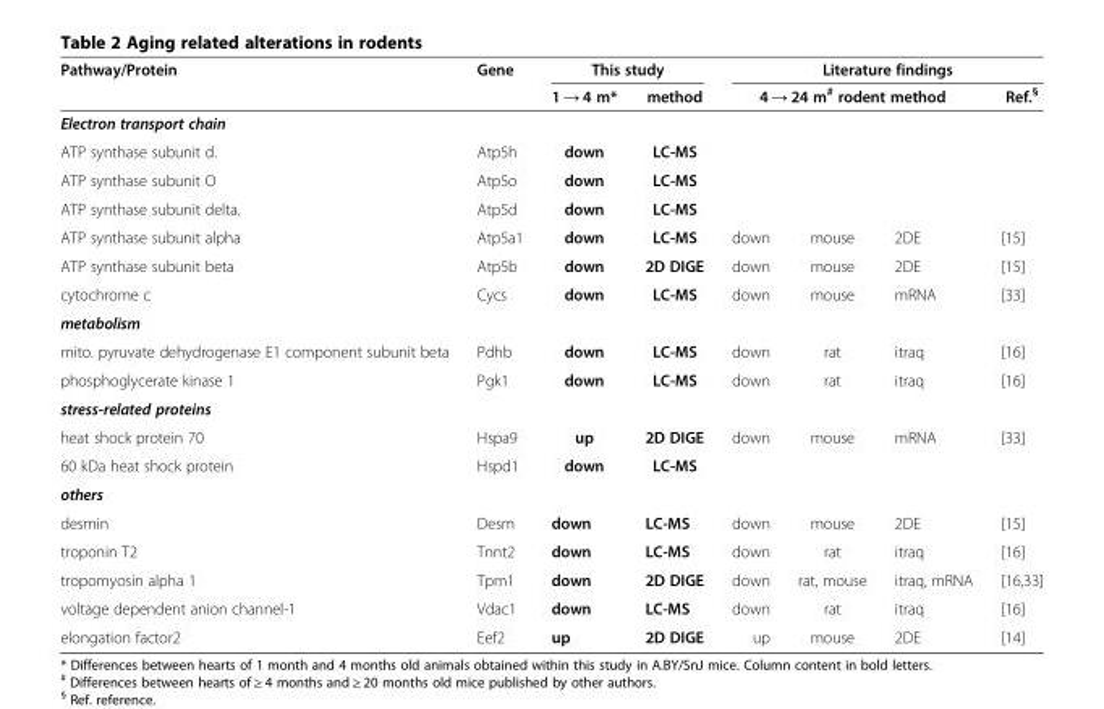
<table><thead><tr><td rowspan="2">Pathway/Protein</td><td rowspan="2">Gene</td><td colspan="2">This study</td><td colspan="4">Literature findings</td></tr><tr><td>1 → 4 m*</td><td>method</td><td colspan="3">4 → 24 m<sup>#</sup> rodent method</td><td>Ref.<sup>§</sup></td></tr><tr><td colspan="8">Electron transport chain</td></tr><tr><td>ATP synthase subunit d.</td><td>Atp5h</td><td>down</td><td>LC-MS</td><td></td><td></td><td></td><td></td></tr></thead><tbody><tr><td>ATP synthase subunit O</td><td>Atp5o</td><td>down</td><td>LC-MS</td><td></td><td></td><td></td><td></td></tr><tr><td>ATP synthase subunit delta.</td><td>Atp5d</td><td>down</td><td>LC-MS</td><td></td><td></td><td></td><td></td></tr><tr><td>ATP synthase subunit alpha</td><td>Atp5a1</td><td>down</td><td>LC-MS</td><td>down</td><td>mouse</td><td>2DE</td><td>[15]</td></tr><tr><td>ATP synthase subunit beta</td><td>Atp5b</td><td>down</td><td>2D DIGE</td><td>down</td><td>mouse</td><td>2DE</td><td>[15]</td></tr><tr><td>cytochrome c</td><td>Cycs</td><td>down</td><td>LC-MS</td><td>down</td><td>mouse</td><td>mRNA</td><td>[33]</td></tr><tr><td colspan="8">metabolism</td></tr><tr><td>mito. pyruvate dehydrogenase E1 component subunit beta</td><td>Pdhb</td><td>down</td><td>LC-MS</td><td>down</td><td>rat</td><td>itraq</td><td>[16]</td></tr><tr><td>phosphoglycerate kinase 1</td><td>Pgk1</td><td>down</td><td>LC-MS</td><td>down</td><td>rat</td><td>itraq</td><td>[16]</td></tr><tr><td colspan="8">stress-related proteins</td></tr><tr><td>heat shock protein 70</td><td>Hspa9</td><td>up</td><td>2D DIGE</td><td>down</td><td>mouse</td><td>mRNA</td><td>[33]</td></tr><tr><td>60 kDa heat shock protein</td><td>Hspd1</td><td>down</td><td>LC-MS</td><td></td><td></td><td></td><td></td></tr><tr><td colspan="8">others</td></tr><tr><td>desmin</td><td>Desm</td><td>down</td><td>LC-MS</td><td>down</td><td>mouse</td><td>2DE</td><td>[15]</td></tr><tr><td>troponin T2</td><td>Tnnt2</td><td>down</td><td>LC-MS</td><td>down</td><td>rat</td><td>itraq</td><td>[16]</td></tr><tr><td>tropomyosin alpha 1</td><td>Tpm1</td><td>down</td><td>2D DIGE</td><td>down</td><td>rat, mouse</td><td>itraq, mRNA</td><td>[16,33]</td></tr><tr><td>voltage dependent anion channel-1</td><td>Vdac1</td><td>down</td><td>LC-MS</td><td>down</td><td>rat</td><td>itraq</td><td>[16]</td></tr><tr><td>elongation factor2</td><td>Eef2</td><td>up</td><td>2D DIGE</td><td>up</td><td>mouse</td><td>2DE</td><td>[14]</td></tr></tbody></table>